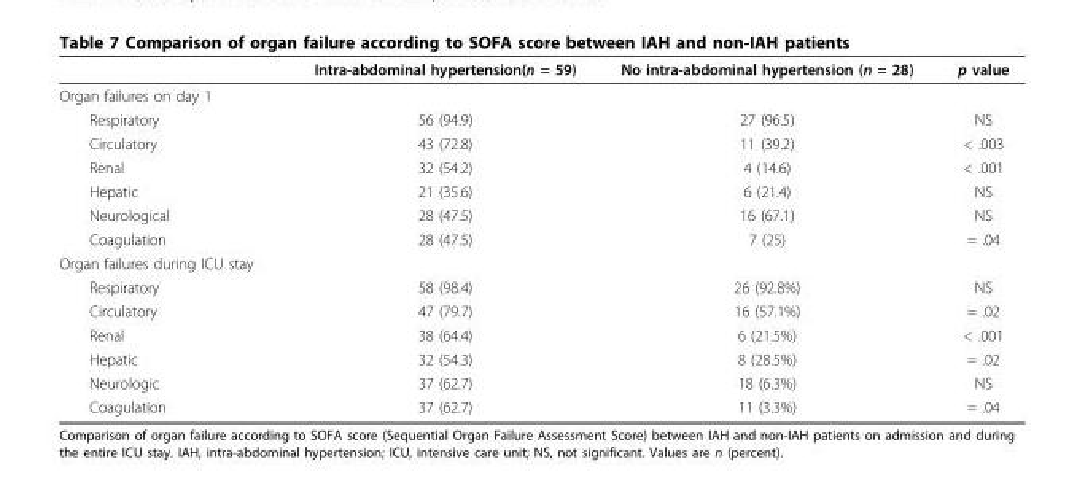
<table><thead><tr><td></td><td>Intra-abdominal hypertension(n = 59)</td><td>No intra-abdominal hypertension (n = 28)</td><td>p value</td></tr></thead><tbody><tr><td colspan="4">Organ failures on day 1</td></tr><tr><td>Respiratory</td><td>56 (94.9)</td><td>27 (96.5)</td><td>NS</td></tr><tr><td>Circulatory</td><td>43 (72.8)</td><td>11 (39.2)</td><td>&lt; .003</td></tr><tr><td>Renal</td><td>32 (54.2)</td><td>4 (14.6)</td><td>&lt; .001</td></tr><tr><td>Hepatic</td><td>21 (35.6)</td><td>6 (21.4)</td><td>NS</td></tr><tr><td>Neurological</td><td>28 (47.5)</td><td>16 (67.1)</td><td>NS</td></tr><tr><td>Coagulation</td><td>28 (47.5)</td><td>7 (25)</td><td>= .04</td></tr><tr><td colspan="4">Organ failures during ICU stay</td></tr><tr><td>Respiratory</td><td>58 (98.4)</td><td>26 (92.8%)</td><td>NS</td></tr><tr><td>Circulatory</td><td>47 (79.7)</td><td>16 (57.1%)</td><td>= .02</td></tr><tr><td>Renal</td><td>38 (64.4)</td><td>6 (21.5%)</td><td>&lt; .001</td></tr><tr><td>Hepatic</td><td>32 (54.3)</td><td>8 (28.5%)</td><td>= .02</td></tr><tr><td>Neurologic</td><td>37 (62.7)</td><td>18 (6.3%)</td><td>NS</td></tr><tr><td>Coagulation</td><td>37 (62.7)</td><td>11 (3.3%)</td><td>= .04</td></tr></tbody></table>